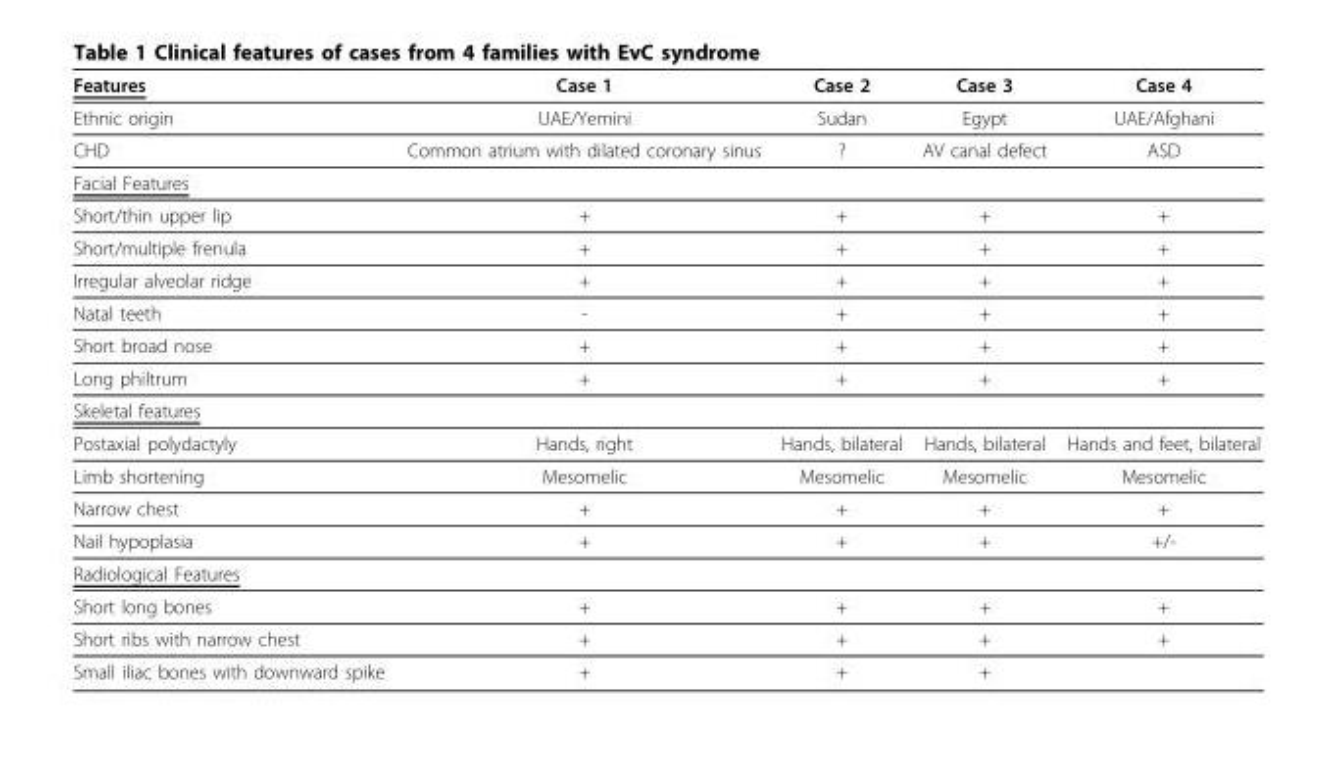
<table><thead><tr><td>Features</td><td>Case 1</td><td>Case 2</td><td>Case 3</td><td>Case 4</td></tr></thead><tbody><tr><td>Ethnic origin</td><td>UAE/Yemini</td><td>Sudan</td><td>Egypt</td><td>UAE/Afghani</td></tr><tr><td>CHD</td><td>Common atrium with dilated coronary sinus</td><td>?</td><td>AV canal defect</td><td>ASD</td></tr><tr><td colspan="5">Facial Features</td></tr><tr><td>Short/thin upper lip</td><td>+</td><td>+</td><td>+</td><td>+</td></tr><tr><td>Short/multiple frenula</td><td>+</td><td>+</td><td>+</td><td>+</td></tr><tr><td>Irregular alveolar ridge</td><td>+</td><td>+</td><td>+</td><td>+</td></tr><tr><td>Natal teeth</td><td>-</td><td>+</td><td>+</td><td>+</td></tr><tr><td>Short broad nose</td><td>+</td><td>+</td><td>+</td><td>+</td></tr><tr><td>Long philtrum</td><td>+</td><td>+</td><td>+</td><td>+</td></tr><tr><td colspan="5">Skeletal features</td></tr><tr><td>Postaxial polydactyly</td><td>Hands, right</td><td>Hands, bilateral</td><td>Hands, bilateral</td><td>Hands and feet, bilateral</td></tr><tr><td>Limb shortening</td><td>Mesomelic</td><td>Mesomelic</td><td>Mesomelic</td><td>Mesomelic</td></tr><tr><td>Narrow chest</td><td>+</td><td>+</td><td>+</td><td>+</td></tr><tr><td>Nail hypoplasia</td><td>+</td><td>+</td><td>+</td><td>+/-</td></tr><tr><td colspan="5">Radiological Features</td></tr><tr><td>Short long bones</td><td>+</td><td>+</td><td>+</td><td>+</td></tr><tr><td>Short ribs with narrow chest</td><td>+</td><td>+</td><td>+</td><td>+</td></tr><tr><td>Small iliac bones with downward spike</td><td>+</td><td>+</td><td>+</td><td></td></tr></tbody></table>